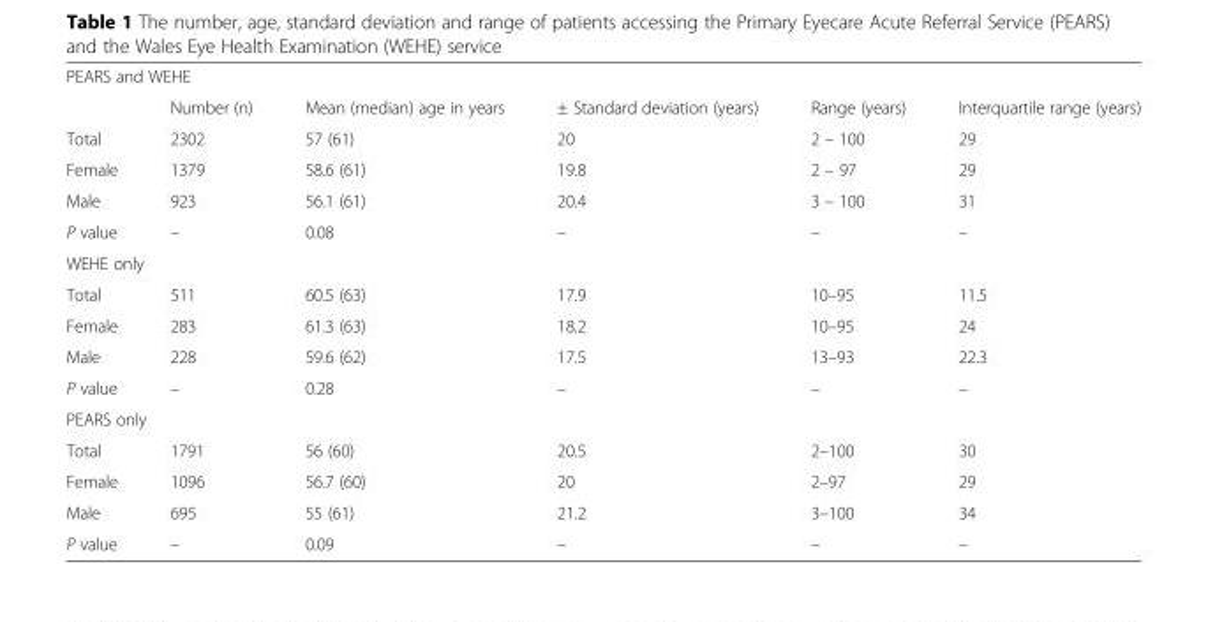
<table><tbody><tr><td colspan="6">PEARS and WEHE</td></tr><tr><td></td><td>Number (n)</td><td>Mean (median) age in years</td><td>± Standard deviation (years)</td><td>Range (years)</td><td>Interquartile range (years)</td></tr><tr><td>Total</td><td>2302</td><td>57 (61)</td><td>20</td><td>2 – 100</td><td>29</td></tr><tr><td>Female</td><td>1379</td><td>58.6 (61)</td><td>19.8</td><td>2 – 97</td><td>29</td></tr><tr><td>Male</td><td>923</td><td>56.1 (61)</td><td>20.4</td><td>3 – 100</td><td>31</td></tr><tr><td>P value</td><td>–</td><td>0.08</td><td>–</td><td>–</td><td>–</td></tr><tr><td colspan="6">WEHE only</td></tr><tr><td>Total</td><td>511</td><td>60.5 (63)</td><td>17.9</td><td>10–95</td><td>11.5</td></tr><tr><td>Female</td><td>283</td><td>61.3 (63)</td><td>18.2</td><td>10–95</td><td>24</td></tr><tr><td>Male</td><td>228</td><td>59.6 (62)</td><td>17.5</td><td>13–93</td><td>22.3</td></tr><tr><td>P value</td><td>–</td><td>0.28</td><td>–</td><td>–</td><td>–</td></tr><tr><td colspan="6">PEARS only</td></tr><tr><td>Total</td><td>1791</td><td>56 (60)</td><td>20.5</td><td>2–100</td><td>30</td></tr><tr><td>Female</td><td>1096</td><td>56.7 (60)</td><td>20</td><td>2–97</td><td>29</td></tr><tr><td>Male</td><td>695</td><td>55 (61)</td><td>21.2</td><td>3–100</td><td>34</td></tr><tr><td>P value</td><td>–</td><td>0.09</td><td>–</td><td>–</td><td>–</td></tr></tbody></table>